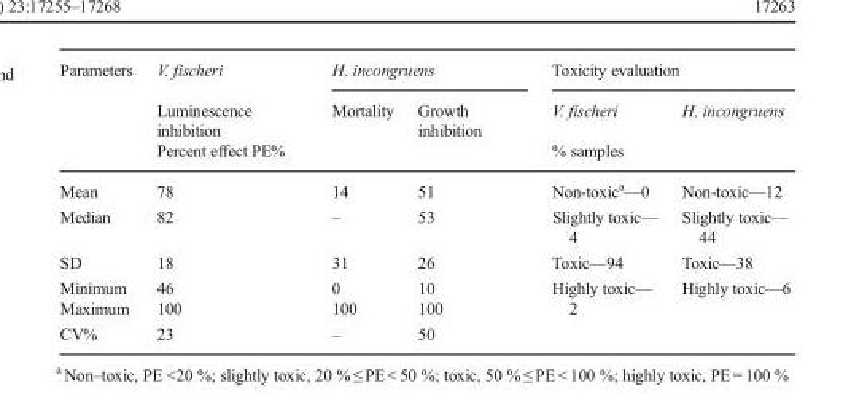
<table><thead><tr><td rowspan="3">Parameters</td><td rowspan="2">V. fischeri Luminescence inhibition</td><td colspan="2">H. incongruens</td><td colspan="2">Toxicity evaluation</td></tr><tr><td>Mortality</td><td>Growth inhibition</td><td>V. fischeri</td><td>H. incongruens</td></tr><tr><td colspan="3">Percent effect PE%</td><td colspan="2">% samples</td></tr></thead><tbody><tr><td>Mean</td><td>78</td><td>14</td><td>51</td><td>Non-toxic<sup>a</sup>—0</td><td>Non-toxic—12</td></tr><tr><td>Median</td><td>82</td><td>–</td><td>53</td><td>Slightly toxic— 4</td><td>Slightly toxic— 44</td></tr><tr><td>SD</td><td>18</td><td>31</td><td>26</td><td>Toxic—94</td><td>Toxic—38</td></tr><tr><td>Minimum</td><td>46</td><td>0</td><td>10</td><td rowspan="3">Highly toxic— 2</td><td rowspan="3">Highly toxic—6</td></tr><tr><td>Maximum</td><td>100</td><td>100</td><td>100</td></tr><tr><td>CV%</td><td>23</td><td>–</td><td>50</td></tr></tbody></table>